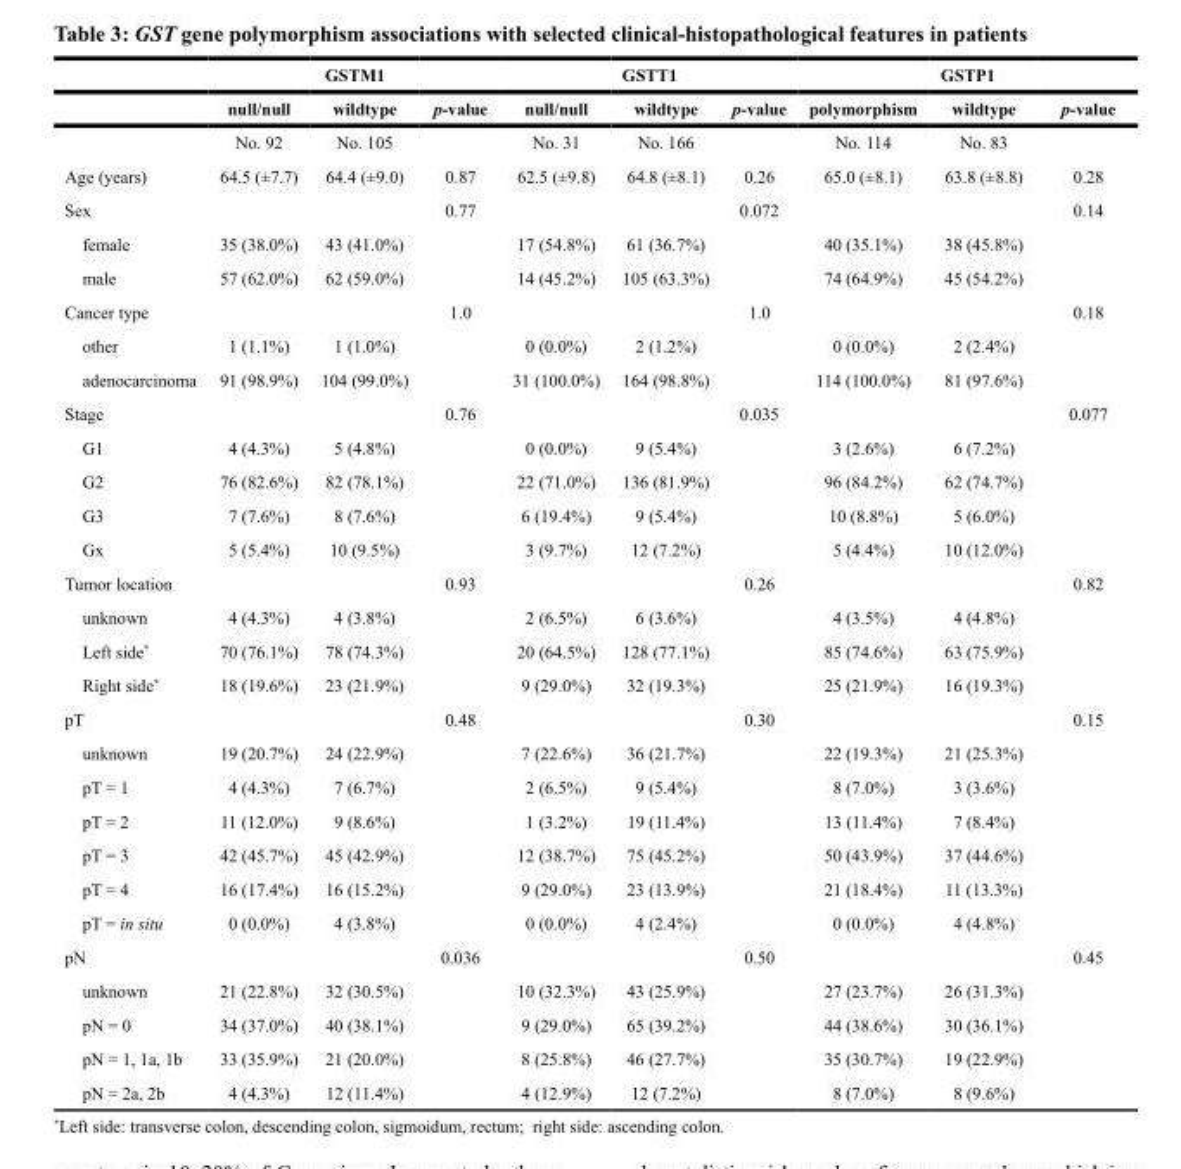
<table><thead><tr><td rowspan="2"></td><td colspan="3">GSTM1</td><td colspan="3">GSTT1</td><td colspan="3">GSTP1</td></tr><tr><td>null/null</td><td>wildtype</td><td>p-value</td><td>null/null</td><td>wildtype</td><td>p-value</td><td>polymorphism</td><td>wildtype</td><td>p-value</td></tr></thead><tbody><tr><td></td><td>No. 92</td><td>No. 105</td><td></td><td>No. 31</td><td>No. 166</td><td></td><td>No. 114</td><td>No. 83</td><td></td></tr><tr><td>Age (years)</td><td>64.5 (±7.7)</td><td>64.4 (±9.0)</td><td>0.87</td><td>62.5 (±9.8)</td><td>64.8 (±8.1)</td><td>0.26</td><td>65.0 (±8.1)</td><td>63.8 (±8.8)</td><td>0.28</td></tr><tr><td>Sex</td><td></td><td></td><td>0.77</td><td></td><td></td><td>0.072</td><td></td><td></td><td>0.14</td></tr><tr><td>female</td><td>35 (38.0%)</td><td>43 (41.0%)</td><td></td><td>17 (54.8%)</td><td>61 (36.7%)</td><td></td><td>40 (35.1%)</td><td>38 (45.8%)</td><td></td></tr><tr><td>male</td><td>57 (62.0%)</td><td>62 (59.0%)</td><td></td><td>14 (45.2%)</td><td>105 (63.3%)</td><td></td><td>74 (64.9%)</td><td>45 (54.2%)</td><td></td></tr><tr><td>Cancer type</td><td></td><td></td><td>1.0</td><td></td><td></td><td>1.0</td><td></td><td></td><td>0.18</td></tr><tr><td>other</td><td>1 (1.1%)</td><td>1 (1.0%)</td><td></td><td>0 (0.0%)</td><td>2 (1.2%)</td><td></td><td>0 (0.0%)</td><td>2 (2.4%)</td><td></td></tr><tr><td>adenocarcinoma</td><td>91 (98.9%)</td><td>104 (99.0%)</td><td></td><td>31 (100.0%)</td><td>164 (98.8%)</td><td></td><td>114 (100.0%)</td><td>81 (97.6%)</td><td></td></tr><tr><td>Stage</td><td></td><td></td><td>0.76</td><td></td><td></td><td>0.035</td><td></td><td></td><td>0.077</td></tr><tr><td>G1</td><td>4 (4.3%)</td><td>5 (4.8%)</td><td></td><td>0 (0.0%)</td><td>9 (5.4%)</td><td></td><td>3 (2.6%)</td><td>6 (7.2%)</td><td></td></tr><tr><td>G2</td><td>76 (82.6%)</td><td>82 (78.1%)</td><td></td><td>22 (71.0%)</td><td>136 (81.9%)</td><td></td><td>96 (84.2%)</td><td>62 (74.7%)</td><td></td></tr><tr><td>G3</td><td>7 (7.6%)</td><td>8 (7.6%)</td><td></td><td>6 (19.4%)</td><td>9 (5.4%)</td><td></td><td>10 (8.8%)</td><td>5 (6.0%)</td><td></td></tr><tr><td>Gx</td><td>5 (5.4%)</td><td>10 (9.5%)</td><td></td><td>3 (9.7%)</td><td>12 (7.2%)</td><td></td><td>5 (4.4%)</td><td>10 (12.0%)</td><td></td></tr><tr><td>Tumor location</td><td></td><td></td><td>0.93</td><td></td><td></td><td>0.26</td><td></td><td></td><td>0.82</td></tr><tr><td>unknown</td><td>4 (4.3%)</td><td>4 (3.8%)</td><td></td><td>2 (6.5%)</td><td>6 (3.6%)</td><td></td><td>4 (3.5%)</td><td>4 (4.8%)</td><td></td></tr><tr><td>Left side*</td><td>70 (76.1%)</td><td>78 (74.3%)</td><td></td><td>20 (64.5%)</td><td>128 (77.1%)</td><td></td><td>85 (74.6%)</td><td>63 (75.9%)</td><td></td></tr><tr><td>Right side*</td><td>18 (19.6%)</td><td>23 (21.9%)</td><td></td><td>9 (29.0%)</td><td>32 (19.3%)</td><td></td><td>25 (21.9%)</td><td>16 (19.3%)</td><td></td></tr><tr><td>pT</td><td></td><td></td><td>0.48</td><td></td><td></td><td>0.30</td><td></td><td></td><td>0.15</td></tr><tr><td>unknown</td><td>19 (20.7%)</td><td>24 (22.9%)</td><td></td><td>7 (22.6%)</td><td>36 (21.7%)</td><td></td><td>22 (19.3%)</td><td>21 (25.3%)</td><td></td></tr><tr><td>pT = 1</td><td>4 (4.3%)</td><td>7 (6.7%)</td><td></td><td>2 (6.5%)</td><td>9 (5.4%)</td><td></td><td>8 (7.0%)</td><td>3 (3.6%)</td><td></td></tr><tr><td>pT = 2</td><td>11 (12.0%)</td><td>9 (8.6%)</td><td></td><td>1 (3.2%)</td><td>19 (11.4%)</td><td></td><td>13 (11.4%)</td><td>7 (8.4%)</td><td></td></tr><tr><td>pT = 3</td><td>42 (45.7%)</td><td>45 (42.9%)</td><td></td><td>12 (38.7%)</td><td>75 (45.2%)</td><td></td><td>50 (43.9%)</td><td>37 (44.6%)</td><td></td></tr><tr><td>pT = 4</td><td>16 (17.4%)</td><td>16 (15.2%)</td><td></td><td>9 (29.0%)</td><td>23 (13.9%)</td><td></td><td>21 (18.4%)</td><td>11 (13.3%)</td><td></td></tr><tr><td>pT = in situ</td><td>0 (0.0%)</td><td>4 (3.8%)</td><td></td><td>0 (0.0%)</td><td>4 (2.4%)</td><td></td><td>0 (0.0%)</td><td>4 (4.8%)</td><td></td></tr><tr><td>pN</td><td></td><td></td><td>0.036</td><td></td><td></td><td>0.50</td><td></td><td></td><td>0.45</td></tr><tr><td>unknown</td><td>21 (22.8%)</td><td>32 (30.5%)</td><td></td><td>10 (32.3%)</td><td>43 (25.9%)</td><td></td><td>27 (23.7%)</td><td>26 (31.3%)</td><td></td></tr><tr><td>pN = 0</td><td>34 (37.0%)</td><td>40 (38.1%)</td><td></td><td>9 (29.0%)</td><td>65 (39.2%)</td><td></td><td>44 (38.6%)</td><td>30 (36.1%)</td><td></td></tr><tr><td>pN = 1, 1a, 1b</td><td>33 (35.9%)</td><td>21 (20.0%)</td><td></td><td>8 (25.8%)</td><td>46 (27.7%)</td><td></td><td>35 (30.7%)</td><td>19 (22.9%)</td><td></td></tr><tr><td>pN = 2a, 2b</td><td>4 (4.3%)</td><td>12 (11.4%)</td><td></td><td>4 (12.9%)</td><td>12 (7.2%)</td><td></td><td>8 (7.0%)</td><td>8 (9.6%)</td><td></td></tr></tbody></table>